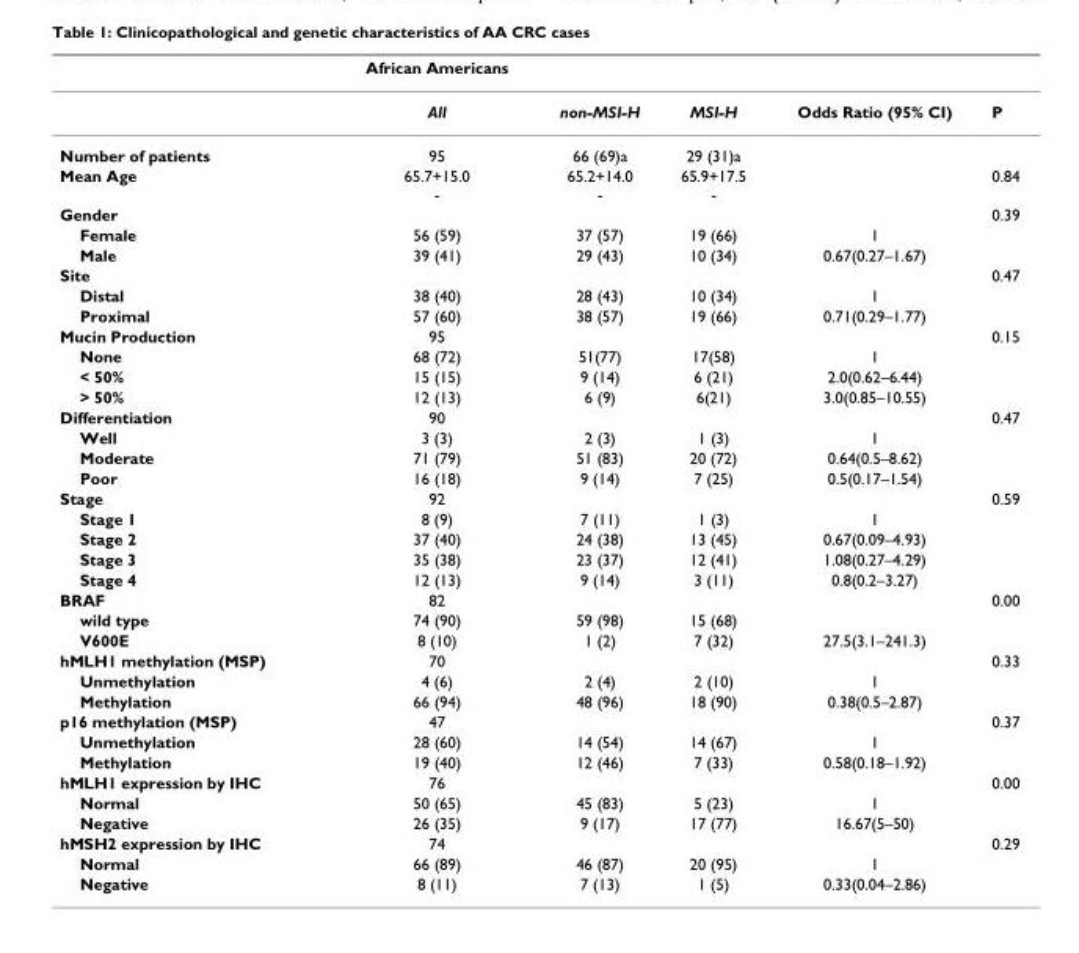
<table><thead><tr><td></td><td>African Americans</td><td></td><td></td><td></td><td></td></tr></thead><tbody><tr><td></td><td>All</td><td>non-MSI-H</td><td>MSI-H</td><td>Odds Ratio (95% CI)</td><td>P</td></tr><tr><td>Number of patients</td><td>95</td><td>66 (69)a</td><td>29 (31)a</td><td></td><td></td></tr><tr><td>Mean Age</td><td>65.7+15.0 -</td><td>65.2+14.0 -</td><td>65.9+17.5 -</td><td></td><td>0.84</td></tr><tr><td>Gender</td><td></td><td></td><td></td><td></td><td>0.39</td></tr><tr><td>Female</td><td>56 (59)</td><td>37 (57)</td><td>19 (66)</td><td>1</td><td></td></tr><tr><td>Male</td><td>39 (41)</td><td>29 (43)</td><td>10 (34)</td><td>0.67(0.27–1.67)</td><td></td></tr><tr><td>Site</td><td></td><td></td><td></td><td></td><td>0.47</td></tr><tr><td>Distal</td><td>38 (40)</td><td>28 (43)</td><td>10 (34)</td><td>1</td><td></td></tr><tr><td>Proximal</td><td>57 (60)</td><td>38 (57)</td><td>19 (66)</td><td>0.71(0.29–1.77)</td><td></td></tr><tr><td>Mucin Production</td><td>95</td><td></td><td></td><td></td><td>0.15</td></tr><tr><td>None</td><td>68 (72)</td><td>51(77)</td><td>17(58)</td><td>1</td><td></td></tr><tr><td>&lt; 50%</td><td>15 (15)</td><td>9 (14)</td><td>6 (21)</td><td>2.0(0.62–6.44)</td><td></td></tr><tr><td>&gt; 50%</td><td>12 (13)</td><td>6 (9)</td><td>6(21)</td><td>3.0(0.85–10.55)</td><td></td></tr><tr><td>Differentiation</td><td>90</td><td></td><td></td><td></td><td>0.47</td></tr><tr><td>Well</td><td>3 (3)</td><td>2 (3)</td><td>1 (3)</td><td>1</td><td></td></tr><tr><td>Moderate</td><td>71 (79)</td><td>51 (83)</td><td>20 (72)</td><td>0.64(0.5–8.62)</td><td></td></tr><tr><td>Poor</td><td>16 (18)</td><td>9 (14)</td><td>7 (25)</td><td>0.5(0.17–1.54)</td><td></td></tr><tr><td>Stage</td><td>92</td><td></td><td></td><td></td><td>0.59</td></tr><tr><td>Stage 1</td><td>8 (9)</td><td>7 (11)</td><td>1 (3)</td><td>1</td><td></td></tr><tr><td>Stage 2</td><td>37 (40)</td><td>24 (38)</td><td>13 (45)</td><td>0.67(0.09–4.93)</td><td></td></tr><tr><td>Stage 3</td><td>35 (38)</td><td>23 (37)</td><td>12 (41)</td><td>1.08(0.27–4.29)</td><td></td></tr><tr><td>Stage 4</td><td>12 (13)</td><td>9 (14)</td><td>3 (11)</td><td>0.8(0.2–3.27)</td><td></td></tr><tr><td>BRAF</td><td>82</td><td></td><td></td><td></td><td>0.00</td></tr><tr><td>wild type</td><td>74 (90)</td><td>59 (98)</td><td>15 (68)</td><td></td><td></td></tr><tr><td>V600E</td><td>8 (10)</td><td>1 (2)</td><td>7 (32)</td><td>27.5(3.1–241.3)</td><td></td></tr><tr><td>hMLH1 methylation (MSP)</td><td>70</td><td></td><td></td><td></td><td>0.33</td></tr><tr><td>Unmethylation</td><td>4 (6)</td><td>2 (4)</td><td>2 (10)</td><td>1</td><td></td></tr><tr><td>Methylation</td><td>66 (94)</td><td>48 (96)</td><td>18 (90)</td><td>0.38(0.5–2.87)</td><td></td></tr><tr><td>p16 methylation (MSP)</td><td>47</td><td></td><td></td><td></td><td>0.37</td></tr><tr><td>Unmethylation</td><td>28 (60)</td><td>14 (54)</td><td>14 (67)</td><td>1</td><td></td></tr><tr><td>Methylation</td><td>19 (40)</td><td>12 (46)</td><td>7 (33)</td><td>0.58(0.18–1.92)</td><td></td></tr><tr><td>hMLH1 expression by IHC</td><td>76</td><td></td><td></td><td></td><td>0.00</td></tr><tr><td>Normal</td><td>50 (65)</td><td>45 (83)</td><td>5 (23)</td><td>1</td><td></td></tr><tr><td>Negative</td><td>26 (35)</td><td>9 (17)</td><td>17 (77)</td><td>16.67(5–50)</td><td></td></tr><tr><td>hMSH2 expression by IHC</td><td>74</td><td></td><td></td><td></td><td>0.29</td></tr><tr><td>Normal</td><td>66 (89)</td><td>46 (87)</td><td>20 (95)</td><td>1</td><td></td></tr><tr><td>Negative</td><td>8 (11)</td><td>7 (13)</td><td>1 (5)</td><td>0.33(0.04–2.86)</td><td></td></tr></tbody></table>